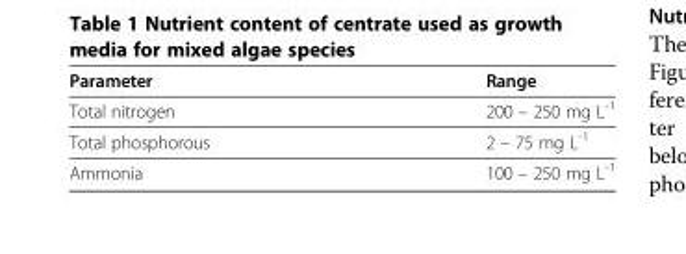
<table><thead><tr><td>Parameter</td><td>Range</td></tr></thead><tbody><tr><td>Total nitrogen</td><td>200 – 250 mg L<sup>-1</sup></td></tr><tr><td>Total phosphorous</td><td>2 – 75 mg L<sup>-1</sup></td></tr><tr><td>Ammonia</td><td>100 – 250 mg L<sup>-1</sup></td></tr></tbody></table>